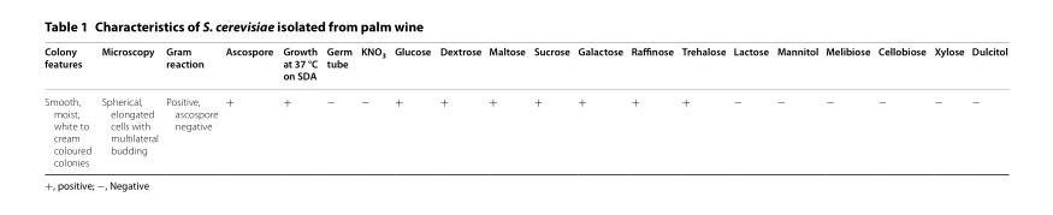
<table><thead><tr><td>Colony features</td><td>Microscopy</td><td>Gram reaction</td><td>Ascospore</td><td>Growth at 37 °C on SDA</td><td>Germ tube</td><td>KNO<sub>3</sub></td><td>Glucose</td><td>Dextrose</td><td>Maltose</td><td>Sucrose</td><td>Galactose</td><td>Raffinose</td><td>Trehalose</td><td>Lactose</td><td>Mannitol</td><td>Melibiose</td><td>Cellobiose</td><td>Xylose</td><td>Dulcitol</td></tr></thead><tbody><tr><td>Smooth, moist, white to cream coloured colonies</td><td>Spherical, elongated cells with multilateral budding</td><td>Positive, ascospore negative</td><td>+</td><td>+</td><td>−</td><td>−</td><td>+</td><td>+</td><td>+</td><td>+</td><td>+</td><td>+</td><td>+</td><td>−</td><td>−</td><td>−</td><td>−</td><td>−</td><td>−</td></tr></tbody></table>